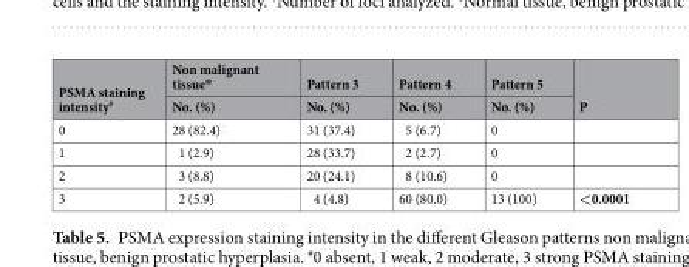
<table><thead><tr><td rowspan="2">PSMA staining intensity<sup>#</sup></td><td rowspan="2">Non malignant tissue* No. (%)</td><td rowspan="2">Pattern 3 No. (%)</td><td rowspan="2">Pattern 4 No. (%)</td><td rowspan="2">Pattern 5 No. (%)</td><td rowspan="2">P</td></tr><tr></tr></thead><tbody><tr><td>0</td><td>28 (82.4)</td><td>31 (37.4)</td><td>5 (6.7)</td><td>0</td><td></td></tr><tr><td>1</td><td>1 (2.9)</td><td>28 (33.7)</td><td>2 (2.7)</td><td>0</td><td></td></tr><tr><td>2</td><td>3 (8.8)</td><td>20 (24.1)</td><td>8 (10.6)</td><td>0</td><td></td></tr><tr><td>3</td><td>2 (5.9)</td><td>4 (4.8)</td><td>60 (80.0)</td><td>13 (100)</td><td>&lt;0.0001</td></tr></tbody></table>